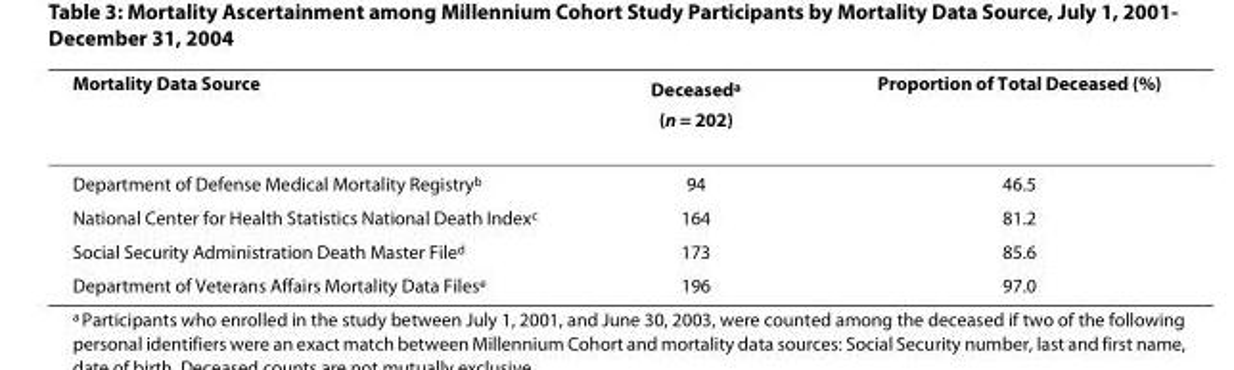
<table><thead><tr><td>Mortality Data Source</td><td>Deceased<sup>a</sup> (n = 202)</td><td>Proportion of Total Deceased (%)</td></tr></thead><tbody><tr><td>Department of Defense Medical Mortality Registry<sup>b</sup></td><td>94</td><td>46.5</td></tr><tr><td>National Center for Health Statistics National Death Index<sup>c</sup></td><td>164</td><td>81.2</td></tr><tr><td>Social Security Administration Death Master File<sup>d</sup></td><td>173</td><td>85.6</td></tr><tr><td>Department of Veterans Affairs Mortality Data Files<sup>e</sup></td><td>196</td><td>97.0</td></tr></tbody></table>